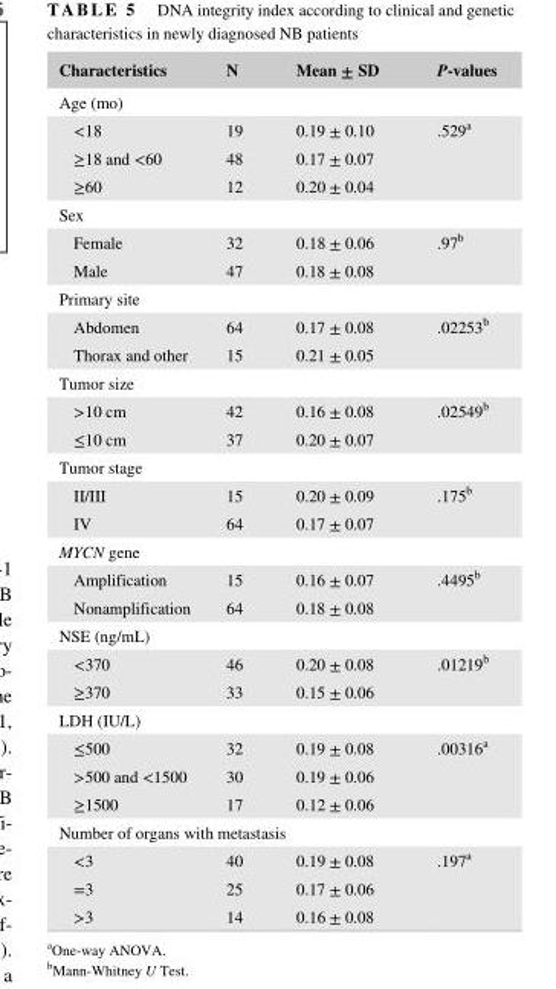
<table><thead><tr><td>Characteristics</td><td>N</td><td>Mean ± SD</td><td>P- values</td></tr></thead><tbody><tr><td colspan="4">Age (mo)</td></tr><tr><td>&lt;18</td><td>19</td><td>0.19 ± 0.10</td><td rowspan="3">.529<sup>a</sup></td></tr><tr><td>≥18 and &lt;60</td><td>48</td><td>0.17 ± 0.07</td></tr><tr><td>≥60</td><td>12</td><td>0.20 ± 0.04</td></tr><tr><td colspan="4">Sex</td></tr><tr><td>Female</td><td>32</td><td>0.18 ± 0.06</td><td rowspan="2">.97<sup>b</sup></td></tr><tr><td>Male</td><td>47</td><td>0.18 ± 0.08</td></tr><tr><td colspan="4">Primary site</td></tr><tr><td>Abdomen</td><td>64</td><td>0.17 ± 0.08</td><td rowspan="2">.02253<sup>b</sup></td></tr><tr><td>Thorax and other</td><td>15</td><td>0.21 ± 0.05</td></tr><tr><td colspan="4">Tumor size</td></tr><tr><td>&gt;10 cm</td><td>42</td><td>0.16 ± 0.08</td><td rowspan="2">.02549<sup>b</sup></td></tr><tr><td>≤10 cm</td><td>37</td><td>0.20 ± 0.07</td></tr><tr><td colspan="4">Tumor stage</td></tr><tr><td>II/III</td><td>15</td><td>0.20 ± 0.09</td><td rowspan="2">.175<sup>b</sup></td></tr><tr><td>IV</td><td>64</td><td>0.17 ± 0.07</td></tr><tr><td colspan="4">MYCN gene</td></tr><tr><td>Amplification</td><td>15</td><td>0.16 ± 0.07</td><td rowspan="2">.4495<sup>b</sup></td></tr><tr><td>Nonamplification</td><td>64</td><td>0.18 ± 0.08</td></tr><tr><td colspan="4">NSE (ng/mL)</td></tr><tr><td>&lt;370</td><td>46</td><td>0.20 ± 0.08</td><td rowspan="2">.01219<sup>b</sup></td></tr><tr><td>≥370</td><td>33</td><td>0.15 ± 0.06</td></tr><tr><td colspan="4">LDH (IU/L)</td></tr><tr><td>≤500</td><td>32</td><td>0.19 ± 0.08</td><td rowspan="3">.00316<sup>a</sup></td></tr><tr><td>&gt;500 and &lt;1500</td><td>30</td><td>0.19 ± 0.06</td></tr><tr><td>≥1500</td><td>17</td><td>0.12 ± 0.06</td></tr><tr><td colspan="4">Number of organs with metastasis</td></tr><tr><td>&lt;3</td><td>40</td><td>0.19 ± 0.08</td><td rowspan="3">.197<sup>a</sup></td></tr><tr><td>=3</td><td>25</td><td>0.17 ± 0.06</td></tr><tr><td>&gt;3</td><td>14</td><td>0.16 ± 0.08</td></tr></tbody></table>